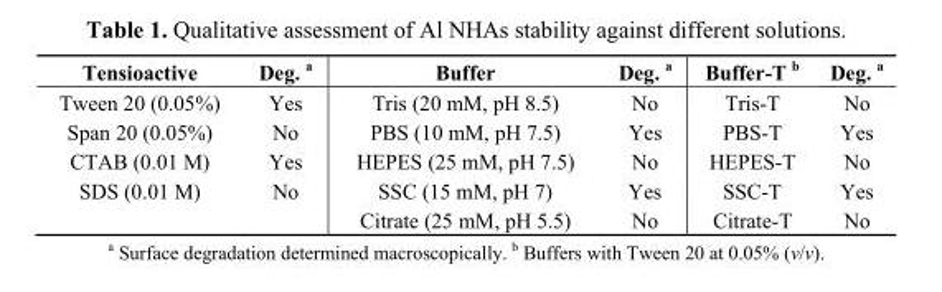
<table><thead><tr><td>Tensioactive</td><td>Deg. <sup>a</sup></td><td>Buffer</td><td>Deg. <sup>a</sup></td><td>Buffer-T <sup>b</sup></td><td>Deg. <sup>a</sup></td></tr></thead><tbody><tr><td>Tween 20 (0.05%)</td><td>Yes</td><td>Tris (20 mM, pH 8.5)</td><td>No</td><td>Tris-T</td><td>No</td></tr><tr><td>Span 20 (0.05%)</td><td>No</td><td>PBS (10 mM, pH 7.5)</td><td>Yes</td><td>PBS-T</td><td>Yes</td></tr><tr><td>CTAB (0.01 M)</td><td>Yes</td><td>HEPES (25 mM, pH 7.5)</td><td>No</td><td>HEPES-T</td><td>No</td></tr><tr><td rowspan="2">SDS (0.01 M)</td><td>No</td><td>SSC (15 mM, pH 7)</td><td>Yes</td><td>SSC-T</td><td>Yes</td></tr><tr><td></td><td>Citrate (25 mM, pH 5.5)</td><td>No</td><td>Citrate-T</td><td>No</td></tr></tbody></table>